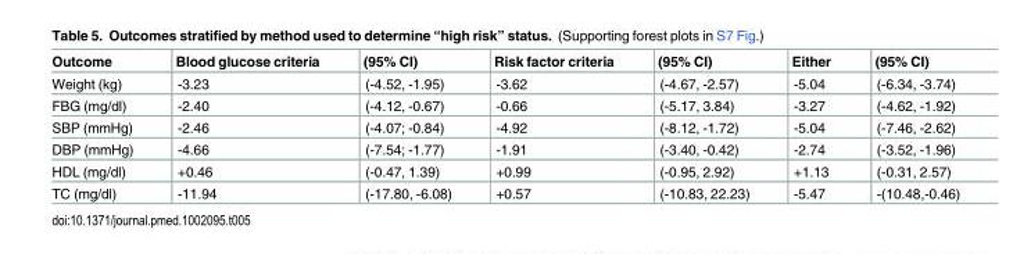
<table><thead><tr><td>Outcome</td><td>Blood glucose criteria</td><td>(95% CI)</td><td>Risk factor criteria</td><td>(95% CI)</td><td>Either</td><td>(95% CI)</td></tr></thead><tbody><tr><td>Weight (kg)</td><td>-3.23</td><td>(-4.52, -1.95)</td><td>-3.62</td><td>(-4.67, -2.57)</td><td>-5.04</td><td>(-6.34, -3.74)</td></tr><tr><td>FBG (mg/dl)</td><td>-2.40</td><td>(-4.12, -0.67)</td><td>-0.66</td><td>(-5.17, 3.84)</td><td>-3.27</td><td>(-4.62, -1.92)</td></tr><tr><td>SBP (mmHg)</td><td>-2.46</td><td>(-4.07; -0.84)</td><td>-4.92</td><td>(-8.12, -1.72)</td><td>-5.04</td><td>(-7.46, -2.62)</td></tr><tr><td>DBP (mmHg)</td><td>-4.66</td><td>(-7.54; -1.77)</td><td>-1.91</td><td>(-3.40, -0.42)</td><td>-2.74</td><td>(-3.52, -1.96)</td></tr><tr><td>HDL (mg/dl)</td><td>+0.46</td><td>(-0.47, 1.39)</td><td>+0.99</td><td>(-0.95, 2.92)</td><td>+1.13</td><td>(-0.31, 2.57)</td></tr><tr><td>TC (mg/dl)</td><td>-11.94</td><td>(-17.80, -6.08)</td><td>+0.57</td><td>(-10.83, 22.23)</td><td>-5.47</td><td>-(10.48,-0.46)</td></tr></tbody></table>